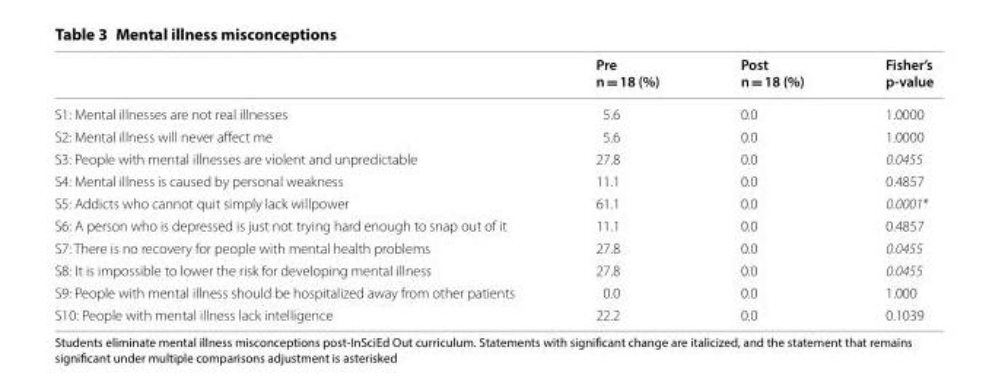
<table><thead><tr><td></td><td>Pre n = 18 (%)</td><td>Post n = 18 (%)</td><td>Fisher’s p-value</td></tr></thead><tbody><tr><td>S1: Mental illnesses are not real illnesses</td><td>5.6</td><td>0.0</td><td>1.0000</td></tr><tr><td>S2: Mental illness will never affect me</td><td>5.6</td><td>0.0</td><td>1.0000</td></tr><tr><td>S3: People with mental illnesses are violent and unpredictable</td><td>27.8</td><td>0.0</td><td>0.0455</td></tr><tr><td>S4: Mental illness is caused by personal weakness</td><td>11.1</td><td>0.0</td><td>0.4857</td></tr><tr><td>S5: Addicts who cannot quit simply lack willpower</td><td>61.1</td><td>0.0</td><td>0.0001*</td></tr><tr><td>S6: A person who is depressed is just not trying hard enough to snap out of it</td><td>11.1</td><td>0.0</td><td>0.4857</td></tr><tr><td>S7: There is no recovery for people with mental health problems</td><td>27.8</td><td>0.0</td><td>0.0455</td></tr><tr><td>S8: It is impossible to lower the risk for developing mental illness</td><td>27.8</td><td>0.0</td><td>0.0455</td></tr><tr><td>S9: People with mental illness should be hospitalized away from other patients</td><td>0.0</td><td>0.0</td><td>1.000</td></tr><tr><td>S10: People with mental illness lack intelligence</td><td>22.2</td><td>0.0</td><td>0.1039</td></tr></tbody></table>